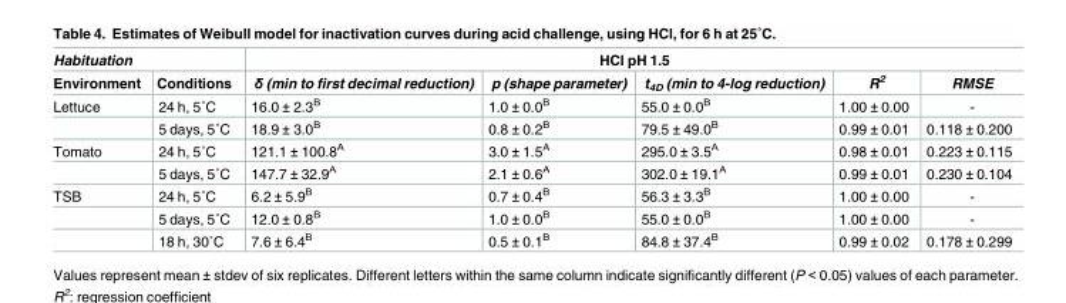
<table><thead><tr><td colspan="2">Habituation</td><td colspan="5">HCl pH 1.5</td></tr><tr><td>Environment</td><td>Conditions</td><td>δ (min to first decimal reduction)</td><td>p (shape parameter)</td><td>t<sub>4D</sub> (min to 4-log reduction)</td><td>R<sup>2</sup></td><td>RMSE</td></tr></thead><tbody><tr><td rowspan="2">Lettuce</td><td>24 h, 5˚C</td><td>16.0 ± 2.3<sup>Β</sup></td><td>1.0 ± 0.0<sup>B</sup></td><td>55.0 ± 0.0<sup>B</sup></td><td>1.00 ± 0.00</td><td>-</td></tr><tr><td>5 days, 5˚C</td><td>18.9 ± 3.0<sup>Β</sup></td><td>0.8 ± 0.2<sup>B</sup></td><td>79.5 ± 49.0<sup>B</sup></td><td>0.99 ± 0.01</td><td>0.118 ± 0.200</td></tr><tr><td rowspan="2">Tomato</td><td>24 h, 5˚C</td><td>121.1 ± 100.8<sup>A</sup></td><td>3.0 ± 1.5<sup>A</sup></td><td>295.0 ± 3.5<sup>Α</sup></td><td>0.98 ± 0.01</td><td>0.223 ± 0.115</td></tr><tr><td>5 days, 5˚C</td><td>147.7 ± 32.9<sup>Α</sup></td><td>2.1 ± 0.6<sup>A</sup></td><td>302.0 ± 19.1<sup>A</sup></td><td>0.99 ± 0.01</td><td>0.230 ± 0.104</td></tr><tr><td rowspan="3">TSB</td><td>24 h, 5˚C</td><td>6.2 ± 5.9<sup>Β</sup></td><td>0.7 ± 0.4<sup>B</sup></td><td>56.3 ± 3.3<sup>B</sup></td><td>1.00 ± 0.00</td><td>-</td></tr><tr><td>5 days, 5˚C</td><td>12.0 ± 0.8<sup>Β</sup></td><td>1.0 ± 0.0<sup>B</sup></td><td>55.0 ± 0.0<sup>B</sup></td><td>1.00 ± 0.00</td><td>-</td></tr><tr><td>18 h, 30˚C</td><td>7.6 ± 6.4<sup>Β</sup></td><td>0.5 ± 0.1<sup>B</sup></td><td>84.8 ± 37.4<sup>B</sup></td><td>0.99 ± 0.02</td><td>0.178 ± 0.299</td></tr></tbody></table>